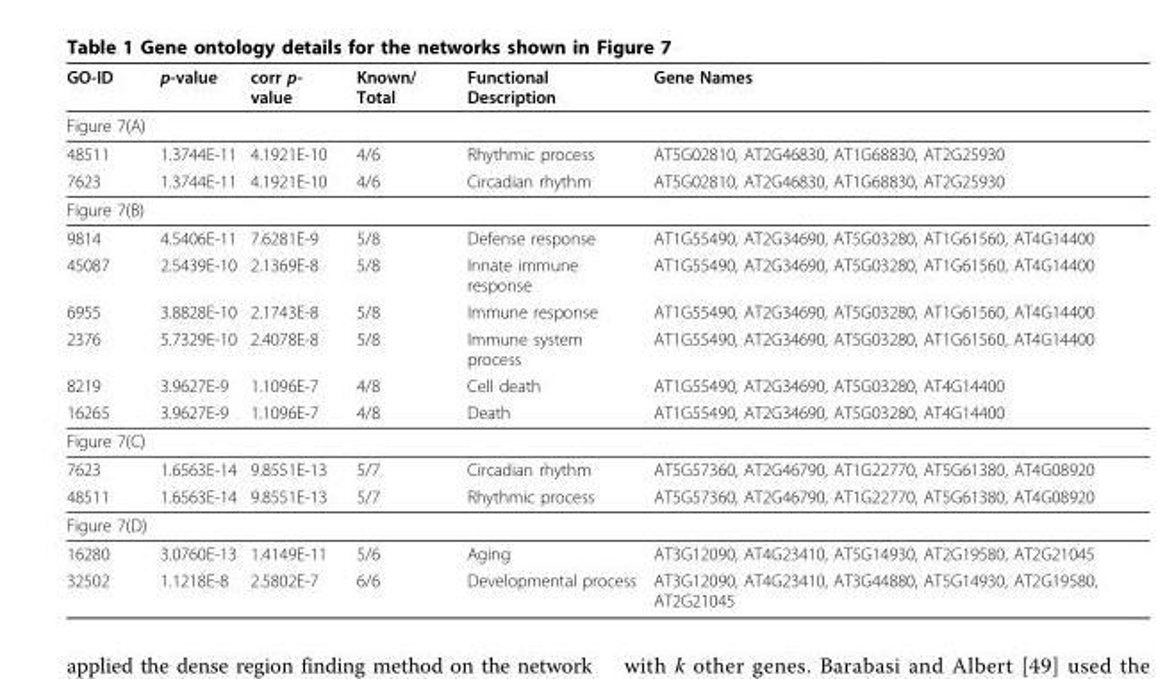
<table><thead><tr><td>GO-ID</td><td>p-value</td><td>corr p- value</td><td>Known/ Total</td><td>Functional Description</td><td>Gene Names</td></tr></thead><tbody><tr><td colspan="6">Figure 7(A)</td></tr><tr><td>48511</td><td>1.3744E-11</td><td>4.1921E-10</td><td>4/6</td><td>Rhythmic process</td><td>AT5G02810, AT2G46830, AT1G68830, AT2G25930</td></tr><tr><td>7623</td><td>1.3744E-11</td><td>4.1921E-10</td><td>4/6</td><td>Circadian rhythm</td><td>AT5G02810, AT2G46830, AT1G68830, AT2G25930</td></tr><tr><td colspan="6">Figure 7(B)</td></tr><tr><td>9814</td><td>4.5406E-11</td><td>7.6281E-9</td><td>5/8</td><td>Defense response</td><td>AT1G55490, AT2G34690, AT5G03280, AT1G61560, AT4G14400</td></tr><tr><td>45087</td><td>2.5439E-10</td><td>2.1369E-8</td><td>5/8</td><td>Innate immune response</td><td>AT1G55490, AT2G34690, AT5G03280, AT1G61560, AT4G14400</td></tr><tr><td>6955</td><td>3.8828E-10</td><td>2.1743E-8</td><td>5/8</td><td>Immune response</td><td>AT1G55490, AT2G34690, AT5G03280, AT1G61560, AT4G14400</td></tr><tr><td>2376</td><td>5.7329E-10</td><td>2.4078E-8</td><td>5/8</td><td>Immune system process</td><td>AT1G55490, AT2G34690, AT5G03280, AT1G61560, AT4G14400</td></tr><tr><td>8219</td><td>3.9627E-9</td><td>1.1096E-7</td><td>4/8</td><td>Cell death</td><td>AT1G55490, AT2G34690, AT5G03280, AT4G14400</td></tr><tr><td>16265</td><td>3.9627E-9</td><td>1.1096E-7</td><td>4/8</td><td>Death</td><td>AT1G55490, AT2G34690, AT5G03280, AT4G14400</td></tr><tr><td colspan="6">Figure 7(C)</td></tr><tr><td>7623</td><td>1.6563E-14</td><td>9.8551E-13</td><td>5/7</td><td>Circadian rhythm</td><td>AT5G57360, AT2G46790, AT1G22770, AT5G61380, AT4G08920</td></tr><tr><td>48511</td><td>1.6563E-14</td><td>9.8551E-13</td><td>5/7</td><td>Rhythmic process</td><td>AT5G57360, AT2G46790, AT1G22770, AT5G61380, AT4G08920</td></tr><tr><td colspan="6">Figure 7(D)</td></tr><tr><td>16280</td><td>3.0760E-13</td><td>1.4149E-11</td><td>5/6</td><td>Aging</td><td>AT3G12090, AT4G23410, AT5G14930, AT2G19580, AT2G21045</td></tr><tr><td>32502</td><td>1.1218E-8</td><td>2.5802E-7</td><td>6/6</td><td>Developmental process</td><td>AT3G12090, AT4G23410, AT3G44880, AT5G14930, AT2G19580, AT2G21045</td></tr></tbody></table>